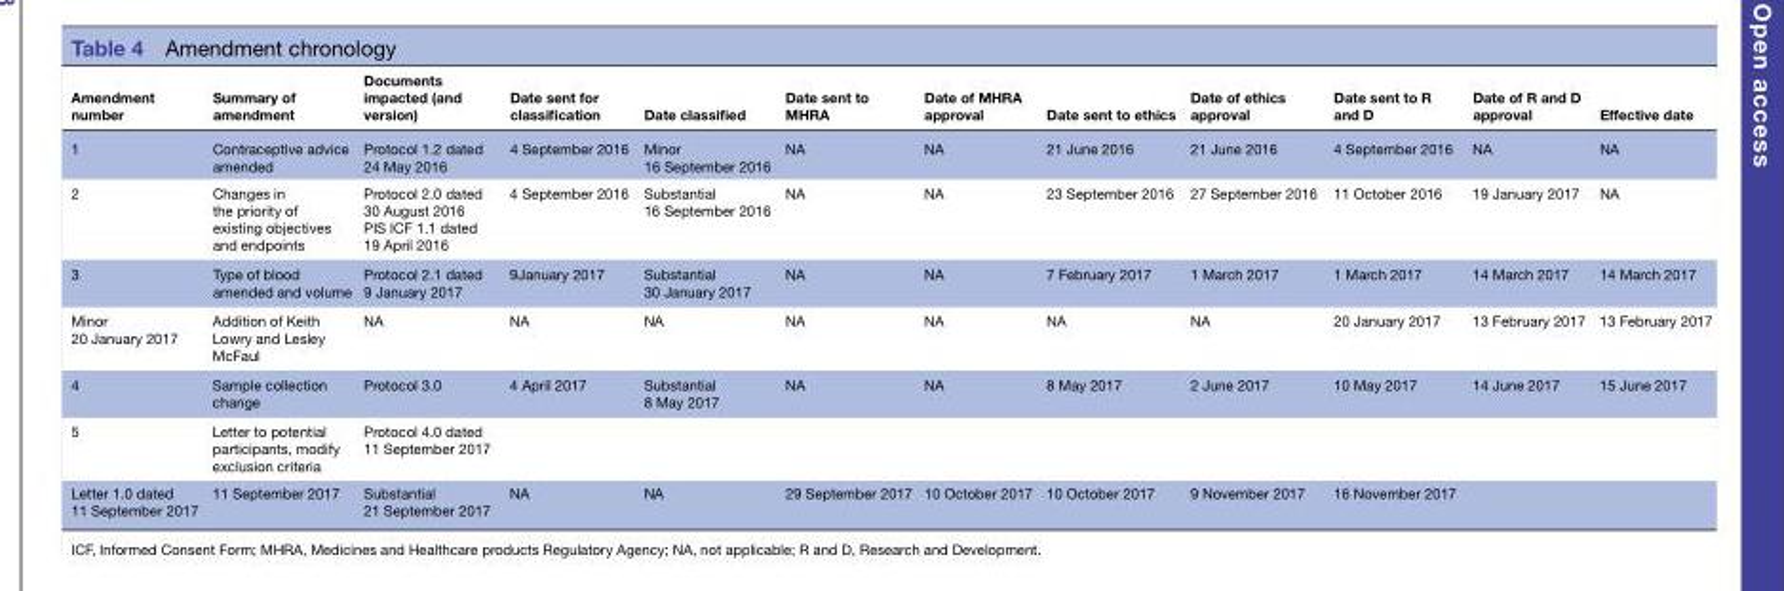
<table><thead><tr><td>Amendment number</td><td>Summary of amendment</td><td>Documents impacted (and version)</td><td>Date sent for classification</td><td>Date classified</td><td>Date sent to MHRA</td><td>Date of MHRA approval</td><td>Date sent to ethics</td><td>Date of ethics approval</td><td>Date sent to R and D</td><td>Date of R and D approval</td><td>Effective date</td></tr></thead><tbody><tr><td>1</td><td>Contraceptive advice amended</td><td>Protocol 1.2 dated 24 May 2016</td><td>4 September 2016</td><td>Minor 16 September 2016</td><td>NA</td><td>NA</td><td>21 June 2016</td><td>21 June 2016</td><td>4 September 2016</td><td>NA</td><td>NA</td></tr><tr><td>2</td><td>Changes in the priority of existing objectives and endpoints</td><td>Protocol 2.0 dated 30 August 2016 PIS ICF 1.1 dated 19 April 2016</td><td>4 September 2016</td><td>Substantial 16 September 2016</td><td>NA</td><td>NA</td><td>23 September 2016</td><td>27 September 2016</td><td>11 October 2016</td><td>19 January 2017</td><td>NA</td></tr><tr><td>3</td><td>Type of blood amended and volume</td><td>Protocol 2.1 dated 9 January 2017</td><td>9January 2017</td><td>Substantial 30 January 2017</td><td>NA</td><td>NA</td><td>7 February 2017</td><td>1 March 2017</td><td>1 March 2017</td><td>14 March 2017</td><td>14 March 2017</td></tr><tr><td>Minor 20 January 2017</td><td>Addition of Keith Lowry and Lesley McFaul</td><td>NA</td><td>NA</td><td>NA</td><td>NA</td><td>NA</td><td>NA</td><td>NA</td><td>20 January 2017</td><td>13 February 2017</td><td>13 February 2017</td></tr><tr><td>4</td><td>Sample collection change</td><td>Protocol 3.0</td><td>4 April 2017</td><td>Substantial 8 May 2017</td><td>NA</td><td>NA</td><td>8 May 2017</td><td>2 June 2017</td><td>10 May 2017</td><td>14 June 2017</td><td>15 June 2017</td></tr><tr><td>5</td><td>Letter to potential participants, modify exclusion criteria</td><td>Protocol 4.0 dated 11 September 2017</td><td></td><td></td><td></td><td></td><td></td><td></td><td></td><td></td><td></td></tr><tr><td>Letter 1.0 dated 11 September 2017</td><td>11 September 2017</td><td>Substantial 21 September 2017</td><td>NA</td><td>NA</td><td>29 September 2017</td><td>10 October 2017</td><td>10 October 2017</td><td>9 November 2017</td><td>16 November 2017</td><td></td><td></td></tr></tbody></table>